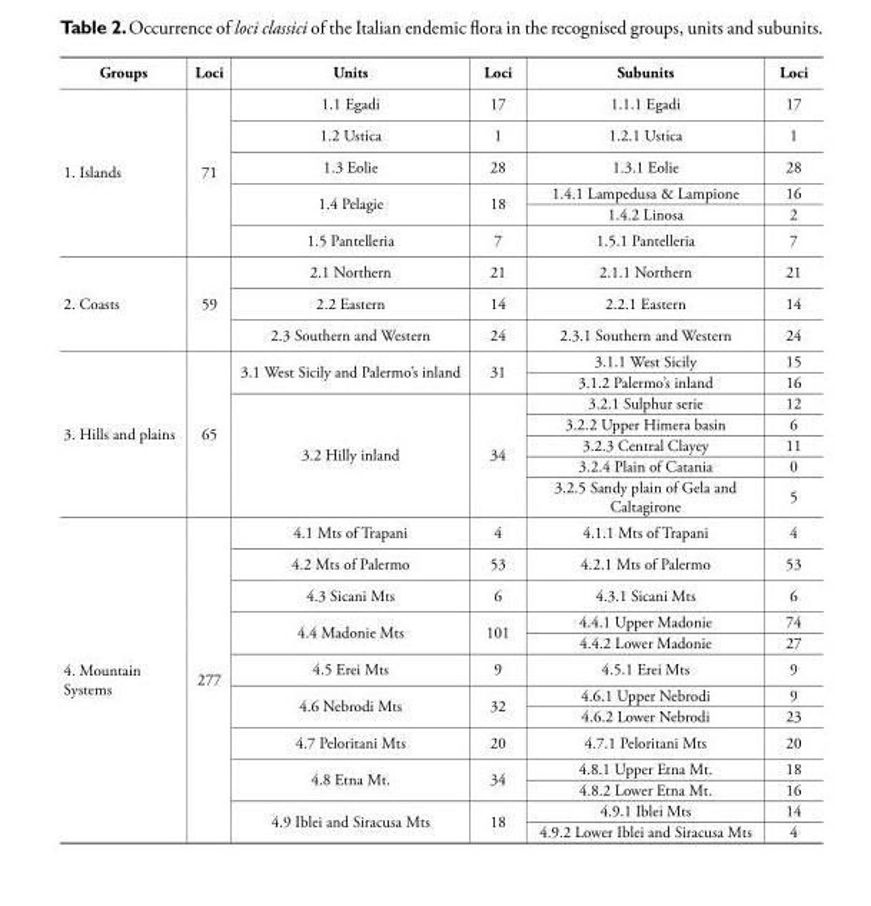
<table><thead><tr><td>Groups</td><td>Loci</td><td>Units</td><td>Loci</td><td>Subunits</td><td>Loci</td></tr></thead><tbody><tr><td rowspan="6">1. Islands</td><td rowspan="6">71</td><td>1.1 Egadi</td><td>17</td><td>1.1.1 Egadi</td><td>17</td></tr><tr><td>1.2 Ustica</td><td>1</td><td>1.2.1 Ustica</td><td>1</td></tr><tr><td>1.3 Eolie</td><td>28</td><td>1.3.1 Eolie</td><td>28</td></tr><tr><td rowspan="2">1.4 Pelagie</td><td rowspan="2">18</td><td>1.4.1 Lampedusa &amp; Lampione</td><td>16</td></tr><tr><td>1.4.2 Linosa</td><td>2</td></tr><tr><td>1.5 Pantelleria</td><td>7</td><td>1.5.1 Pantelleria</td><td>7</td></tr><tr><td rowspan="3">2. Coasts</td><td rowspan="3">59</td><td>2.1 Northern</td><td>21</td><td>2.1.1 Northern</td><td>21</td></tr><tr><td>2.2 Eastern</td><td>14</td><td>2.2.1 Eastern</td><td>14</td></tr><tr><td>2.3 Southern and Western</td><td>24</td><td>2.3.1 Southern and Western</td><td>24</td></tr><tr><td rowspan="7">3. Hills and plains</td><td rowspan="7">65</td><td rowspan="2">3.1 West Sicily and Palermo’s inland</td><td rowspan="2">31</td><td>3.1.1 West Sicily</td><td>15</td></tr><tr><td>3.1.2 Palermo’s inland</td><td>16</td></tr><tr><td rowspan="5">3.2 Hilly inland</td><td rowspan="5">34</td><td>3.2.1 Sulphur serie</td><td>12</td></tr><tr><td>3.2.2 Upper Himera basin</td><td>6</td></tr><tr><td>3.2.3 Central Clayey</td><td>11</td></tr><tr><td>3.2.4 Plain of Catania</td><td>0</td></tr><tr><td>3.2.5 Sandy plain of Gela and Caltagirone</td><td>5</td></tr><tr><td rowspan="13">4. Mountain Systems</td><td rowspan="13">277</td><td>4.1 Mts of Trapani</td><td>4</td><td>4.1.1 Mts of Trapani</td><td>4</td></tr><tr><td>4.2 Mts of Palermo</td><td>53</td><td>4.2.1 Mts of Palermo</td><td>53</td></tr><tr><td>4.3 Sicani Mts</td><td>6</td><td>4.3.1 Sicani Mts</td><td>6</td></tr><tr><td rowspan="2">4.4 Madonie Mts</td><td rowspan="2">101</td><td>4.4.1 Upper Madonie</td><td>74</td></tr><tr><td>4.4.2 Lower Madonie</td><td>27</td></tr><tr><td>4.5 Erei Mts</td><td>9</td><td>4.5.1 Erei Mts</td><td>9</td></tr><tr><td rowspan="2">4.6 Nebrodi Mts</td><td rowspan="2">32</td><td>4.6.1 Upper Nebrodi</td><td>9</td></tr><tr><td>4.6.2 Lower Nebrodi</td><td>23</td></tr><tr><td>4.7 Peloritani Mts</td><td>20</td><td>4.7.1 Peloritani Mts</td><td>20</td></tr><tr><td rowspan="2">4.8 Etna Mt.</td><td rowspan="2">34</td><td>4.8.1 Upper Etna Mt.</td><td>18</td></tr><tr><td>4.8.2 Lower Etna Mt.</td><td>16</td></tr><tr><td rowspan="2">4.9 Iblei and Siracusa Mts</td><td rowspan="2">18</td><td>4.9.1 Iblei Mts</td><td>14</td></tr><tr><td>4.9.2 Lower Iblei and Siracusa Mts</td><td>4</td></tr></tbody></table>